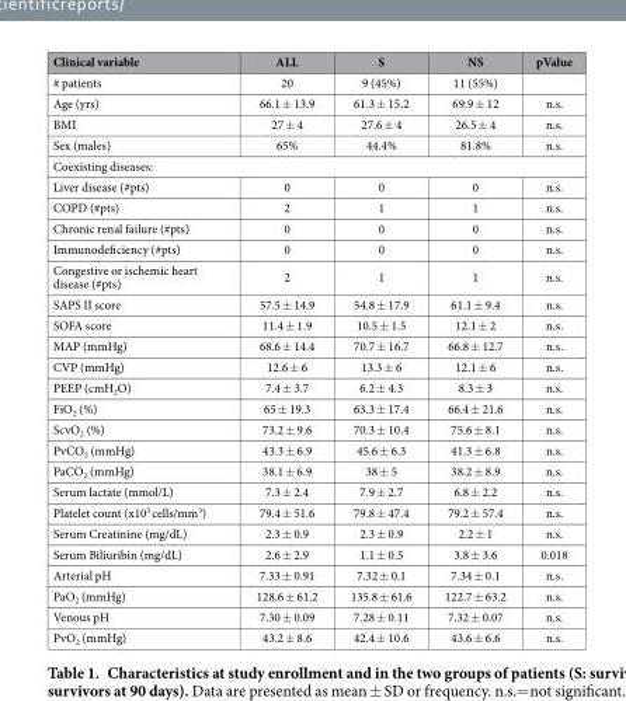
<table><thead><tr><td>Clinical variable</td><td>ALL</td><td>S</td><td>NS</td><td>pValue</td></tr></thead><tbody><tr><td># patients</td><td>20</td><td>9 (45%)</td><td>11 (55%)</td><td></td></tr><tr><td>Age (yrs)</td><td>66.1 ± 13.9</td><td>61.3 ± 15.2</td><td>69.9 ± 12</td><td>n.s.</td></tr><tr><td>BMI</td><td>27 ± 4</td><td>27.6 ± 4</td><td>26.5 ± 4</td><td>n.s.</td></tr><tr><td>Sex (males)</td><td>65%</td><td>44.4%</td><td>81.8%</td><td>n.s.</td></tr><tr><td colspan="5">Coexisting diseases:</td></tr><tr><td>Liver disease (#pts)</td><td>0</td><td>0</td><td>0</td><td>n.s.</td></tr><tr><td>COPD (#pts)</td><td>2</td><td>1</td><td>1</td><td>n.s.</td></tr><tr><td>Chronic renal failure (#pts)</td><td>0</td><td>0</td><td>0</td><td>n.s.</td></tr><tr><td>Immunodeficiency (#pts)</td><td>0</td><td>0</td><td>0</td><td>n.s.</td></tr><tr><td>Congestive or ischemic heart disease (#pts)</td><td>2</td><td>1</td><td>1</td><td>n.s.</td></tr><tr><td>SAPS II score</td><td>57.5 ± 14.9</td><td>54.8 ± 17.9</td><td>61.1 ± 9.4</td><td>n.s.</td></tr><tr><td>SOFA score</td><td>11.4 ± 1.9</td><td>10.5 ± 1.5</td><td>12.1 ± 2</td><td>n.s.</td></tr><tr><td>MAP (mmHg)</td><td>68.6 ± 14.4</td><td>70.7 ± 16.7</td><td>66.8 ± 12.7</td><td>n.s.</td></tr><tr><td>CVP (mmHg)</td><td>12.6 ± 6</td><td>13.3 ± 6</td><td>12.1 ± 6</td><td>n.s.</td></tr><tr><td>PEEP (cmH<sub>2</sub>O)</td><td>7.4 ± 3.7</td><td>6.2 ± 4.3</td><td>8.3 ± 3</td><td>n.s.</td></tr><tr><td>FiO<sub>2</sub> (%)</td><td>65 ± 19.3</td><td>63.3 ± 17.4</td><td>66.4 ± 21.6</td><td>n.s.</td></tr><tr><td>ScvO<sub>2</sub> (%)</td><td>73.2 ± 9.6</td><td>70.3 ± 10.4</td><td>75.6 ± 8.1</td><td>n.s.</td></tr><tr><td>PvCO<sub>2</sub> (mmHg)</td><td>43.3 ± 6.9</td><td>45.6 ± 6.3</td><td>41.3 ± 6.8</td><td>n.s.</td></tr><tr><td>PaCO<sub>2</sub> (mmHg)</td><td>38.1 ± 6.9</td><td>38 ± 5</td><td>38.2 ± 8.9</td><td>n.s.</td></tr><tr><td>Serum lactate (mmol/L)</td><td>7.3 ± 2.4</td><td>7.9 ± 2.7</td><td>6.8 ± 2.2</td><td>n.s.</td></tr><tr><td>Platelet count (x10<sup>3</sup> cells/mm<sup>3</sup>)</td><td>79.4 ± 51.6</td><td>79.8 ± 47.4</td><td>79.2 ± 57.4</td><td>n.s.</td></tr><tr><td>Serum Creatinine (mg/dL)</td><td>2.3 ± 0.9</td><td>2.3 ± 0.9</td><td>2.2 ± 1</td><td>n.s.</td></tr><tr><td>Serum Biliuribin (mg/dL)</td><td>2.6 ± 2.9</td><td>1.1 ± 0.5</td><td>3.8 ± 3.6</td><td>0.018</td></tr><tr><td>Arterial pH</td><td>7.33 ± 0.91</td><td>7.32 ± 0.1</td><td>7.34 ± 0.1</td><td>n.s.</td></tr><tr><td>PaO<sub>2</sub> (mmHg)</td><td>128.6 ± 61.2</td><td>135.8 ± 61.6</td><td>122.7 ± 63.2</td><td>n.s.</td></tr><tr><td>Venous pH</td><td>7.30 ± 0.09</td><td>7.28 ± 0.11</td><td>7.32 ± 0.07</td><td>n.s.</td></tr><tr><td>PvO<sub>2</sub> (mmHg)</td><td>43.2 ± 8.6</td><td>42.4 ± 10.6</td><td>43.6 ± 6.6</td><td>n.s.</td></tr></tbody></table>